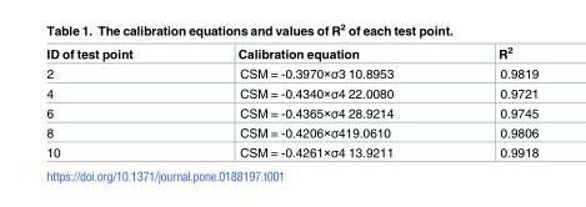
<table><thead><tr><td>ID of test point</td><td>Calibration equation</td><td>R<sup>2</sup></td></tr></thead><tbody><tr><td>2</td><td>CSM = -0.3970×σ3 10.8953</td><td>0.9819</td></tr><tr><td>4</td><td>CSM = -0.4340×σ4 22.0080</td><td>0.9721</td></tr><tr><td>6</td><td>CSM = -0.4365×σ4 28.9214</td><td>0.9745</td></tr><tr><td>8</td><td>CSM = -0.4206×σ419.0610</td><td>0.9806</td></tr><tr><td>10</td><td>CSM = -0.4261×σ4 13.9211</td><td>0.9918</td></tr></tbody></table>